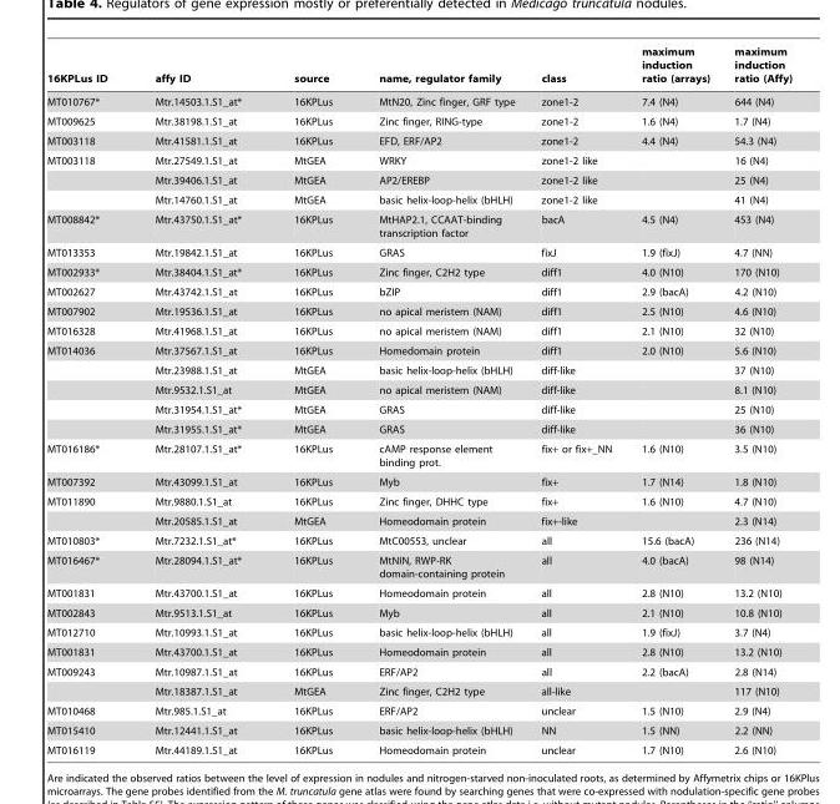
<table><thead><tr><td>16KPLus ID</td><td>affy ID</td><td>source</td><td>name, regulator family</td><td>class</td><td>maximum induction ratio (arrays)</td><td>maximum induction ratio (Affy)</td></tr></thead><tbody><tr><td>MT010767*</td><td>Mtr.14503.1.S1_at*</td><td>16KPLus</td><td>MtN20, Zinc finger, GRF type</td><td>zone1-2</td><td>7.4 (N4)</td><td>644 (N4)</td></tr><tr><td>MT009625</td><td>Mtr.38198.1.S1_at</td><td>16KPLus</td><td>Zinc finger, RING-type</td><td>zone1-2</td><td>1.6 (N4)</td><td>1.7 (N4)</td></tr><tr><td>MT003118</td><td>Mtr.41581.1.S1_at</td><td>16KPLus</td><td>EFD, ERF/AP2</td><td>zone1-2</td><td>4.4 (N4)</td><td>54.3 (N4)</td></tr><tr><td rowspan="3">MT003118</td><td>Mtr.27549.1.S1_at</td><td>MtGEA</td><td>WRKY</td><td>zone1-2 like</td><td></td><td>16 (N4)</td></tr><tr><td>Mtr.39406.1.S1_at</td><td>MtGEA</td><td>AP2/EREBP</td><td>zone1-2 like</td><td></td><td>25 (N4)</td></tr><tr><td>Mtr.14760.1.S1_at</td><td>MtGEA</td><td>basic helix-loop-helix (bHLH)</td><td>zone1-2 like</td><td></td><td>41 (N4)</td></tr><tr><td>MT008842*</td><td>Mtr.43750.1.S1_at*</td><td>16KPLus</td><td>MtHAP2.1, CCAAT-binding transcription factor</td><td>bacA</td><td>4.5 (N4)</td><td>453 (N4)</td></tr><tr><td>MT013353</td><td>Mtr.19842.1.S1_at</td><td>16KPLus</td><td>GRAS</td><td>fixJ</td><td>1.9 (fixJ)</td><td>4.7 (NN)</td></tr><tr><td>MT002933*</td><td>Mtr.38404.1.S1_at*</td><td>16KPLus</td><td>Zinc finger, C2H2 type</td><td>diff1</td><td>4.0 (N10)</td><td>170 (N10)</td></tr><tr><td>MT002627</td><td>Mtr.43742.1.S1_at</td><td>16KPLus</td><td>bZIP</td><td>diff1</td><td>2.9 (bacA)</td><td>4.2 (N10)</td></tr><tr><td>MT007902</td><td>Mtr.19536.1.S1_at</td><td>16KPLus</td><td>no apical meristem (NAM)</td><td>diff1</td><td>2.5 (N10)</td><td>4.6 (N10)</td></tr><tr><td>MT016328</td><td>Mtr.41968.1.S1_at</td><td>16KPLus</td><td>no apical meristem (NAM)</td><td>diff1</td><td>2.1 (N10)</td><td>32 (N10)</td></tr><tr><td rowspan="5">MT014036</td><td>Mtr.37567.1.S1_at</td><td>16KPLus</td><td>Homedomain protein</td><td>diff1</td><td>2.0 (N10)</td><td>5.6 (N10)</td></tr><tr><td>Mtr.23988.1.S1_at</td><td>MtGEA</td><td>basic helix-loop-helix (bHLH)</td><td>diff-like</td><td></td><td>37 (N10)</td></tr><tr><td>Mtr.9532.1.S1_at</td><td>MtGEA</td><td>no apical meristem (NAM)</td><td>diff-like</td><td></td><td>8.1 (N10)</td></tr><tr><td>Mtr.31954.1.S1_at*</td><td>MtGEA</td><td>GRAS</td><td>diff-like</td><td></td><td>25 (N10)</td></tr><tr><td>Mtr.31955.1.S1_at*</td><td>MtGEA</td><td>GRAS</td><td>diff-like</td><td></td><td>36 (N10)</td></tr><tr><td>MT016186*</td><td>Mtr.28107.1.S1_at*</td><td>16KPLus</td><td>cAMP response element binding prot.</td><td>fix+ or fix+_NN</td><td>1.6 (N10)</td><td>3.5 (N10)</td></tr><tr><td>MT007392</td><td>Mtr.43099.1.S1_at</td><td>16KPLus</td><td>Myb</td><td>fix+</td><td>1.7 (N14)</td><td>1.8 (N10)</td></tr><tr><td rowspan="2">MT011890</td><td>Mtr.9880.1.S1_at</td><td>16KPLus</td><td>Zinc finger, DHHC type</td><td>fix+</td><td>1.6 (N10)</td><td>4.7 (N10)</td></tr><tr><td>Mtr.20585.1.S1_at</td><td>MtGEA</td><td>Homeodomain protein</td><td>fix+-like</td><td></td><td>2.3 (N14)</td></tr><tr><td>MT010803*</td><td>Mtr.7232.1.S1_at*</td><td>16KPLus</td><td>MtC00553, unclear</td><td>all</td><td>15.6 (bacA)</td><td>236 (N14)</td></tr><tr><td>MT016467*</td><td>Mtr.28094.1.S1_at*</td><td>16KPLus</td><td>MtNIN, RWP-RK domain-containing protein</td><td>all</td><td>4.0 (bacA)</td><td>98 (N14)</td></tr><tr><td>MT001831</td><td>Mtr.43700.1.S1_at</td><td>16KPLus</td><td>Homeodomain protein</td><td>all</td><td>2.8 (N10)</td><td>13.2 (N10)</td></tr><tr><td>MT002843</td><td>Mtr.9513.1.S1_at</td><td>16KPLus</td><td>Myb</td><td>all</td><td>2.1 (N10)</td><td>10.8 (N10)</td></tr><tr><td>MT012710</td><td>Mtr.10993.1.S1_at</td><td>16KPLus</td><td>basic helix-loop-helix (bHLH)</td><td>all</td><td>1.9 (fixJ)</td><td>3.7 (N4)</td></tr><tr><td>MT001831</td><td>Mtr.43700.1.S1_at</td><td>16KPLus</td><td>Homeodomain protein</td><td>all</td><td>2.8 (N10)</td><td>13.2 (N10)</td></tr><tr><td rowspan="2">MT009243</td><td>Mtr.10987.1.S1_at</td><td>16KPLus</td><td>ERF/AP2</td><td>all</td><td>2.2 (bacA)</td><td>2.8 (N14)</td></tr><tr><td>Mtr.18387.1.S1_at</td><td>MtGEA</td><td>Zinc finger, C2H2 type</td><td>all-like</td><td></td><td>117 (N10)</td></tr><tr><td>MT010468</td><td>Mtr.985.1.S1_at</td><td>16KPLus</td><td>ERF/AP2</td><td>unclear</td><td>1.5 (N10)</td><td>2.9 (N4)</td></tr><tr><td>MT015410</td><td>Mtr.12441.1.S1_at</td><td>16KPLus</td><td>basic helix-loop-helix (bHLH)</td><td>NN</td><td>1.5 (NN)</td><td>2.2 (NN)</td></tr><tr><td>MT016119</td><td>Mtr.44189.1.S1_at</td><td>16KPLus</td><td>Homeodomain protein</td><td>unclear</td><td>1.7 (N10)</td><td>2.6 (N10)</td></tr></tbody></table>